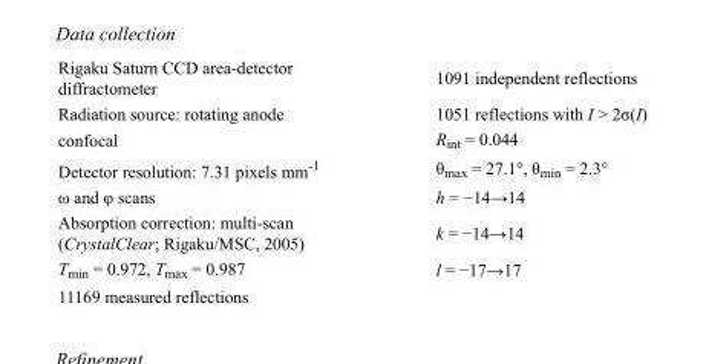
<table><tbody><tr><td>Rigaku Saturn CCD area-detector diffractometer</td><td>1091 independent reflections</td></tr><tr><td>Radiation source: rotating anode</td><td>1051 reflections with I &gt; 2σ(I)</td></tr><tr><td>confocal</td><td>R<sub>int</sub> = 0.044</td></tr><tr><td>Detector resolution: 7.31 pixels mm<sup>-1</sup></td><td>θ<sub>max</sub> = 27.1°, θ<sub>min</sub> = 2.3°</td></tr><tr><td>ω and φ scans</td><td>h = −14→14</td></tr><tr><td>Absorption correction: multi-scan (CrystalClear; Rigaku/MSC, 2005)</td><td>k = −14→14</td></tr><tr><td>T<sub>min</sub> = 0.972, T<sub>max</sub> = 0.987</td><td>l = −17→17</td></tr><tr><td>11169 measured reflections</td><td></td></tr></tbody></table>